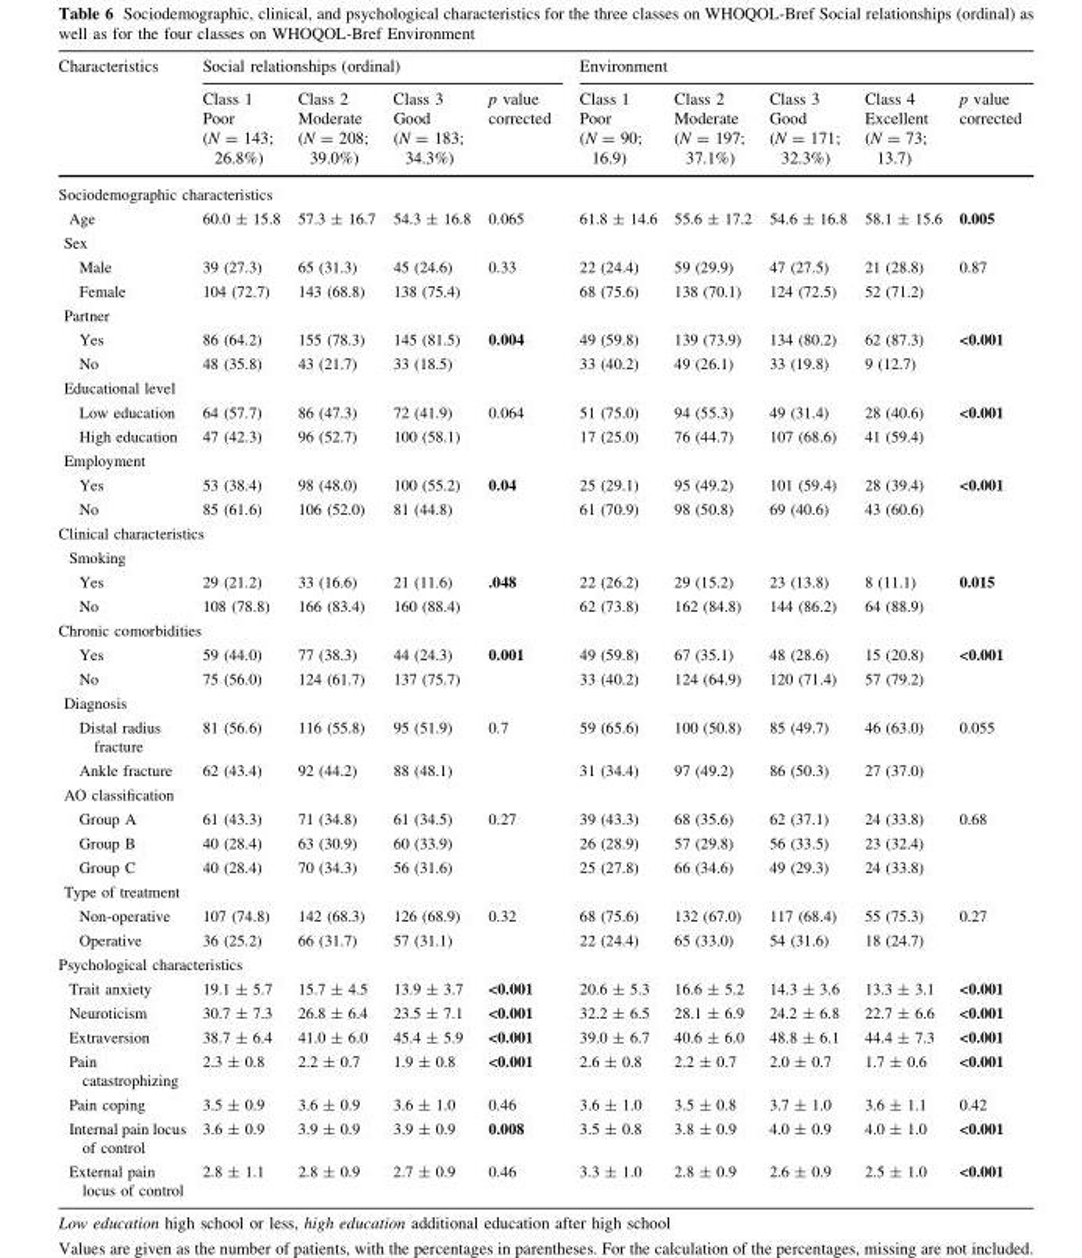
<table><thead><tr><td rowspan="2">Characteristics</td><td colspan="4">Social relationships (ordinal)</td><td colspan="5">Environment</td></tr><tr><td>Class 1 Poor (N = 143; 26.8%)</td><td>Class 2 Moderate (N = 208; 39.0%)</td><td>Class 3 Good (N = 183; 34.3%)</td><td>p value corrected</td><td>Class 1 Poor (N = 90; 16.9)</td><td>Class 2 Moderate (N = 197; 37.1%)</td><td>Class 3 Good (N = 171; 32.3%)</td><td>Class 4 Excellent (N = 73; 13.7)</td><td>p value corrected</td></tr></thead><tbody><tr><td colspan="10">Sociodemographic characteristics</td></tr><tr><td>Age</td><td>60.0 ± 15.8</td><td>57.3 ± 16.7</td><td>54.3 ± 16.8</td><td>0.065</td><td>61.8 ± 14.6</td><td>55.6 ± 17.2</td><td>54.6 ± 16.8</td><td>58.1 ± 15.6</td><td>0.005</td></tr><tr><td colspan="10">Sex</td></tr><tr><td>Male</td><td>39 (27.3)</td><td>65 (31.3)</td><td>45 (24.6)</td><td>0.33</td><td>22 (24.4)</td><td>59 (29.9)</td><td>47 (27.5)</td><td>21 (28.8)</td><td>0.87</td></tr><tr><td>Female</td><td>104 (72.7)</td><td>143 (68.8)</td><td>138 (75.4)</td><td></td><td>68 (75.6)</td><td>138 (70.1)</td><td>124 (72.5)</td><td>52 (71.2)</td><td></td></tr><tr><td colspan="10">Partner</td></tr><tr><td>Yes</td><td>86 (64.2)</td><td>155 (78.3)</td><td>145 (81.5)</td><td>0.004</td><td>49 (59.8)</td><td>139 (73.9)</td><td>134 (80.2)</td><td>62 (87.3)</td><td>&lt;0.001</td></tr><tr><td>No</td><td>48 (35.8)</td><td>43 (21.7)</td><td>33 (18.5)</td><td></td><td>33 (40.2)</td><td>49 (26.1)</td><td>33 (19.8)</td><td>9 (12.7)</td><td></td></tr><tr><td colspan="10">Educational level</td></tr><tr><td>Low education</td><td>64 (57.7)</td><td>86 (47.3)</td><td>72 (41.9)</td><td>0.064</td><td>51 (75.0)</td><td>94 (55.3)</td><td>49 (31.4)</td><td>28 (40.6)</td><td>&lt;0.001</td></tr><tr><td>High education</td><td>47 (42.3)</td><td>96 (52.7)</td><td>100 (58.1)</td><td></td><td>17 (25.0)</td><td>76 (44.7)</td><td>107 (68.6)</td><td>41 (59.4)</td><td></td></tr><tr><td colspan="10">Employment</td></tr><tr><td>Yes</td><td>53 (38.4)</td><td>98 (48.0)</td><td>100 (55.2)</td><td>0.04</td><td>25 (29.1)</td><td>95 (49.2)</td><td>101 (59.4)</td><td>28 (39.4)</td><td>&lt;0.001</td></tr><tr><td>No</td><td>85 (61.6)</td><td>106 (52.0)</td><td>81 (44.8)</td><td></td><td>61 (70.9)</td><td>98 (50.8)</td><td>69 (40.6)</td><td>43 (60.6)</td><td></td></tr><tr><td colspan="10">Clinical characteristics</td></tr><tr><td colspan="10">Smoking</td></tr><tr><td>Yes</td><td>29 (21.2)</td><td>33 (16.6)</td><td>21 (11.6)</td><td>.048</td><td>22 (26.2)</td><td>29 (15.2)</td><td>23 (13.8)</td><td>8 (11.1)</td><td>0.015</td></tr><tr><td>No</td><td>108 (78.8)</td><td>166 (83.4)</td><td>160 (88.4)</td><td></td><td>62 (73.8)</td><td>162 (84.8)</td><td>144 (86.2)</td><td>64 (88.9)</td><td></td></tr><tr><td colspan="10">Chronic comorbidities</td></tr><tr><td>Yes</td><td>59 (44.0)</td><td>77 (38.3)</td><td>44 (24.3)</td><td>0.001</td><td>49 (59.8)</td><td>67 (35.1)</td><td>48 (28.6)</td><td>15 (20.8)</td><td>&lt;0.001</td></tr><tr><td>No</td><td>75 (56.0)</td><td>124 (61.7)</td><td>137 (75.7)</td><td></td><td>33 (40.2)</td><td>124 (64.9)</td><td>120 (71.4)</td><td>57 (79.2)</td><td></td></tr><tr><td colspan="10">Diagnosis</td></tr><tr><td>Distal radius fracture</td><td>81 (56.6)</td><td>116 (55.8)</td><td>95 (51.9)</td><td>0.7</td><td>59 (65.6)</td><td>100 (50.8)</td><td>85 (49.7)</td><td>46 (63.0)</td><td>0.055</td></tr><tr><td>Ankle fracture</td><td>62 (43.4)</td><td>92 (44.2)</td><td>88 (48.1)</td><td></td><td>31 (34.4)</td><td>97 (49.2)</td><td>86 (50.3)</td><td>27 (37.0)</td><td></td></tr><tr><td colspan="10">AO classification</td></tr><tr><td>Group A</td><td>61 (43.3)</td><td>71 (34.8)</td><td>61 (34.5)</td><td>0.27</td><td>39 (43.3)</td><td>68 (35.6)</td><td>62 (37.1)</td><td>24 (33.8)</td><td>0.68</td></tr><tr><td>Group B</td><td>40 (28.4)</td><td>63 (30.9)</td><td>60 (33.9)</td><td></td><td>26 (28.9)</td><td>57 (29.8)</td><td>56 (33.5)</td><td>23 (32.4)</td><td></td></tr><tr><td>Group C</td><td>40 (28.4)</td><td>70 (34.3)</td><td>56 (31.6)</td><td></td><td>25 (27.8)</td><td>66 (34.6)</td><td>49 (29.3)</td><td>24 (33.8)</td><td></td></tr><tr><td colspan="10">Type of treatment</td></tr><tr><td>Non-operative</td><td>107 (74.8)</td><td>142 (68.3)</td><td>126 (68.9)</td><td>0.32</td><td>68 (75.6)</td><td>132 (67.0)</td><td>117 (68.4)</td><td>55 (75.3)</td><td>0.27</td></tr><tr><td>Operative</td><td>36 (25.2)</td><td>66 (31.7)</td><td>57 (31.1)</td><td></td><td>22 (24.4)</td><td>65 (33.0)</td><td>54 (31.6)</td><td>18 (24.7)</td><td></td></tr><tr><td colspan="10">Psychological characteristics</td></tr><tr><td>Trait anxiety</td><td>19.1 ± 5.7</td><td>15.7 ± 4.5</td><td>13.9 ± 3.7</td><td>&lt;0.001</td><td>20.6 ± 5.3</td><td>16.6 ± 5.2</td><td>14.3 ± 3.6</td><td>13.3 ± 3.1</td><td>&lt;0.001</td></tr><tr><td>Neuroticism</td><td>30.7 ± 7.3</td><td>26.8 ± 6.4</td><td>23.5 ± 7.1</td><td>&lt;0.001</td><td>32.2 ± 6.5</td><td>28.1 ± 6.9</td><td>24.2 ± 6.8</td><td>22.7 ± 6.6</td><td>&lt;0.001</td></tr><tr><td>Extraversion</td><td>38.7 ± 6.4</td><td>41.0 ± 6.0</td><td>45.4 ± 5.9</td><td>&lt;0.001</td><td>39.0 ± 6.7</td><td>40.6 ± 6.0</td><td>48.8 ± 6.1</td><td>44.4 ± 7.3</td><td>&lt;0.001</td></tr><tr><td>Pain catastrophizing</td><td>2.3 ± 0.8</td><td>2.2 ± 0.7</td><td>1.9 ± 0.8</td><td>&lt;0.001</td><td>2.6 ± 0.8</td><td>2.2 ± 0.7</td><td>2.0 ± 0.7</td><td>1.7 ± 0.6</td><td>&lt;0.001</td></tr><tr><td>Pain coping</td><td>3.5 ± 0.9</td><td>3.6 ± 0.9</td><td>3.6 ± 1.0</td><td>0.46</td><td>3.6 ± 1.0</td><td>3.5 ± 0.8</td><td>3.7 ± 1.0</td><td>3.6 ± 1.1</td><td>0.42</td></tr><tr><td>Internal pain locus of control</td><td>3.6 ± 0.9</td><td>3.9 ± 0.9</td><td>3.9 ± 0.9</td><td>0.008</td><td>3.5 ± 0.8</td><td>3.8 ± 0.9</td><td>4.0 ± 0.9</td><td>4.0 ± 1.0</td><td>&lt;0.001</td></tr><tr><td>External pain locus of control</td><td>2.8 ± 1.1</td><td>2.8 ± 0.9</td><td>2.7 ± 0.9</td><td>0.46</td><td>3.3 ± 1.0</td><td>2.8 ± 0.9</td><td>2.6 ± 0.9</td><td>2.5 ± 1.0</td><td>&lt;0.001</td></tr></tbody></table>